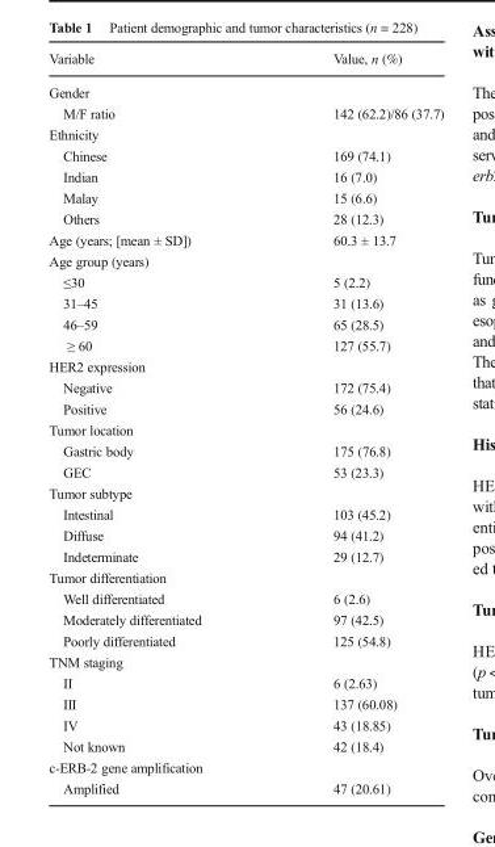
<table><thead><tr><td>Variable</td><td>Value, n (%)</td></tr></thead><tbody><tr><td colspan="2">Gender</td></tr><tr><td>M/F ratio</td><td>142 (62.2)/86 (37.7)</td></tr><tr><td colspan="2">Ethnicity</td></tr><tr><td>Chinese</td><td>169 (74.1)</td></tr><tr><td>Indian</td><td>16 (7.0)</td></tr><tr><td>Malay</td><td>15 (6.6)</td></tr><tr><td>Others</td><td>28 (12.3)</td></tr><tr><td>Age (years; [mean ± SD])</td><td>60.3 ± 13.7</td></tr><tr><td colspan="2">Age group (years)</td></tr><tr><td>≤30</td><td>5 (2.2)</td></tr><tr><td>31–45</td><td>31 (13.6)</td></tr><tr><td>46–59</td><td>65 (28.5)</td></tr><tr><td>≥ 60</td><td>127 (55.7)</td></tr><tr><td colspan="2">HER2 expression</td></tr><tr><td>Negative</td><td>172 (75.4)</td></tr><tr><td>Positive</td><td>56 (24.6)</td></tr><tr><td colspan="2">Tumor location</td></tr><tr><td>Gastric body</td><td>175 (76.8)</td></tr><tr><td>GEC</td><td>53 (23.3)</td></tr><tr><td colspan="2">Tumor subtype</td></tr><tr><td>Intestinal</td><td>103 (45.2)</td></tr><tr><td>Diffuse</td><td>94 (41.2)</td></tr><tr><td>Indeterminate</td><td>29 (12.7)</td></tr><tr><td colspan="2">Tumor differentiation</td></tr><tr><td>Well differentiated</td><td>6 (2.6)</td></tr><tr><td>Moderately differentiated</td><td>97 (42.5)</td></tr><tr><td>Poorly differentiated</td><td>125 (54.8)</td></tr><tr><td colspan="2">TNM staging</td></tr><tr><td>II</td><td>6 (2.63)</td></tr><tr><td>III</td><td>137 (60.08)</td></tr><tr><td>IV</td><td>43 (18.85)</td></tr><tr><td>Not known</td><td>42 (18.4)</td></tr><tr><td colspan="2">c-ERB-2 gene amplification</td></tr><tr><td>Amplified</td><td>47 (20.61)</td></tr></tbody></table>